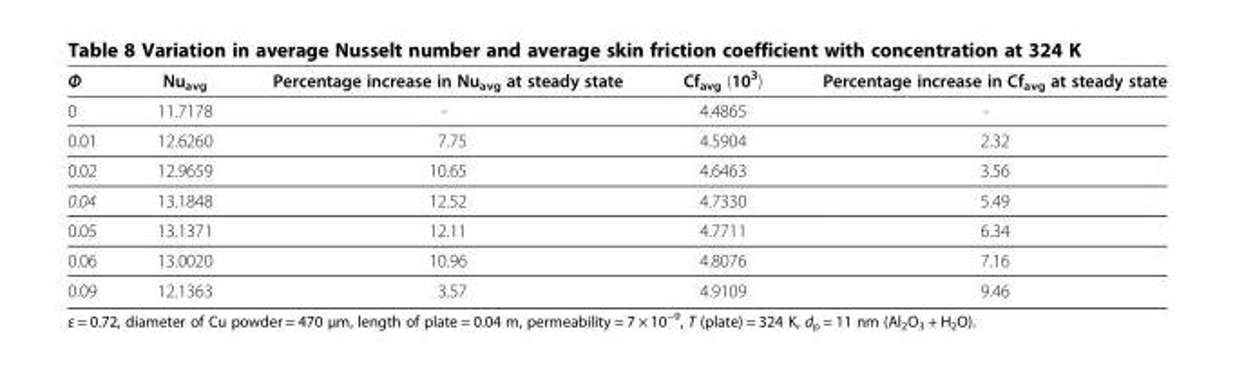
<table><thead><tr><td>Φ</td><td>Nu<sub>avg</sub></td><td>Percentage increase in Nu<sub>avg</sub> at steady state</td><td>Cf<sub>avg</sub> (10<sup>3</sup>)</td><td>Percentage increase in Cf<sub>avg</sub> at steady state</td></tr></thead><tbody><tr><td>0</td><td>11.7178</td><td>-</td><td>4.4865</td><td>-</td></tr><tr><td>0.01</td><td>12.6260</td><td>7.75</td><td>4.5904</td><td>2.32</td></tr><tr><td>0.02</td><td>12.9659</td><td>10.65</td><td>4.6463</td><td>3.56</td></tr><tr><td>0.04</td><td>13.1848</td><td>12.52</td><td>4.7330</td><td>5.49</td></tr><tr><td>0.05</td><td>13.1371</td><td>12.11</td><td>4.7711</td><td>6.34</td></tr><tr><td>0.06</td><td>13.0020</td><td>10.96</td><td>4.8076</td><td>7.16</td></tr><tr><td>0.09</td><td>12.1363</td><td>3.57</td><td>4.9109</td><td>9.46</td></tr></tbody></table>